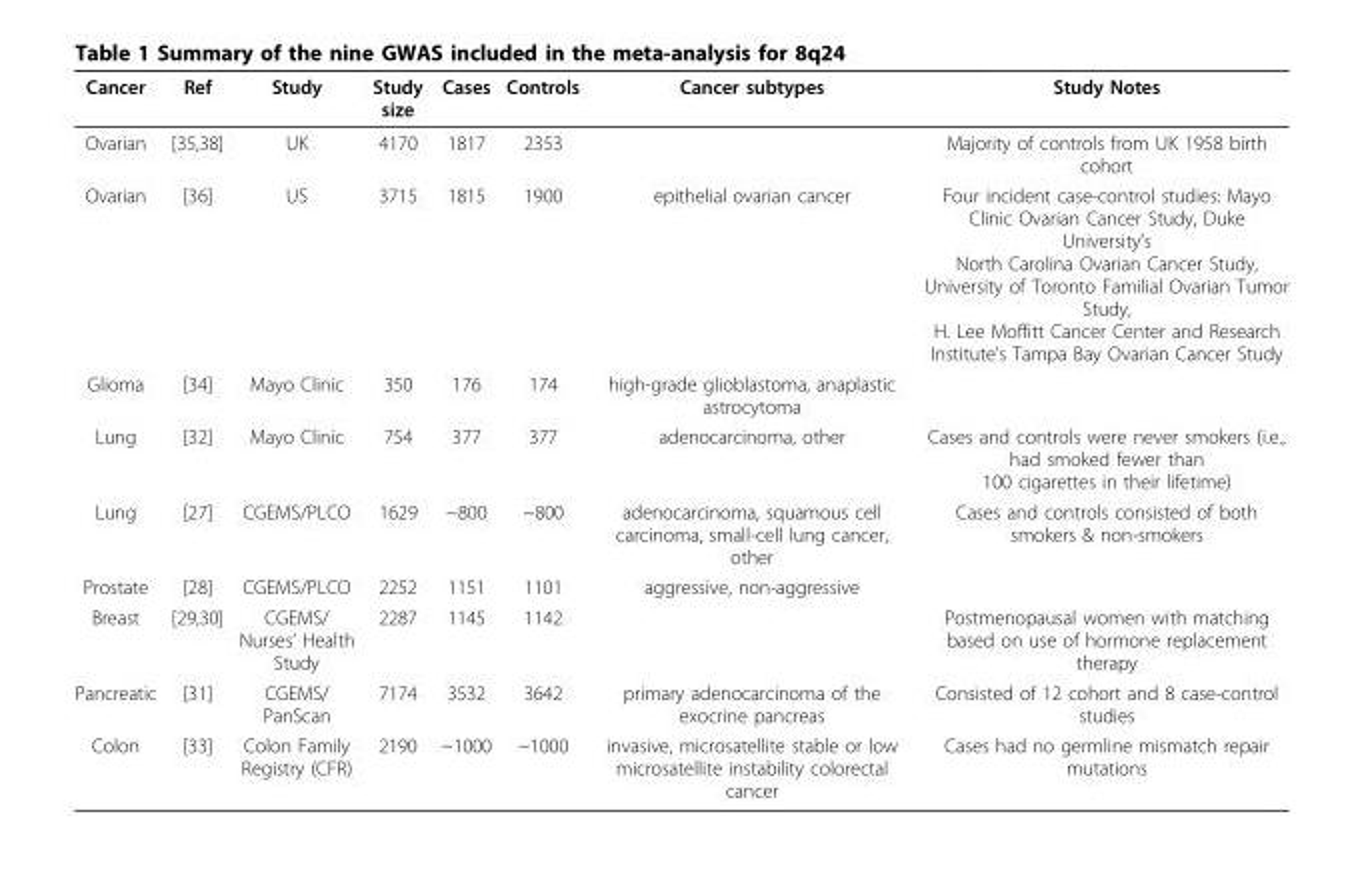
<table><thead><tr><td>Cancer</td><td>Ref</td><td>Study</td><td>Study size</td><td>Cases</td><td>Controls</td><td>Cancer subtypes</td><td>Study Notes</td></tr></thead><tbody><tr><td>Ovarian</td><td>[35,38]</td><td>UK</td><td>4170</td><td>1817</td><td>2353</td><td></td><td>Majority of controls from UK 1958 birth cohort</td></tr><tr><td>Ovarian</td><td>[36]</td><td>US</td><td>3715</td><td>1815</td><td>1900</td><td>epithelial ovarian cancer</td><td>Four incident case-control studies: Mayo Clinic Ovarian Cancer Study, Duke University’s North Carolina Ovarian Cancer Study, University of Toronto Familial Ovarian Tumor Study, H. Lee Moffitt Cancer Center and Research Institute’s Tampa Bay Ovarian Cancer Study</td></tr><tr><td>Glioma</td><td>[34]</td><td>Mayo Clinic</td><td>350</td><td>176</td><td>174</td><td>high-grade glioblastoma, anaplastic astrocytoma</td><td></td></tr><tr><td>Lung</td><td>[32]</td><td>Mayo Clinic</td><td>754</td><td>377</td><td>377</td><td>adenocarcinoma, other</td><td>Cases and controls were never smokers (i.e., had smoked fewer than 100 cigarettes in their lifetime)</td></tr><tr><td>Lung</td><td>[27]</td><td>CGEMS/PLCO</td><td>1629</td><td>~800</td><td>~800</td><td>adenocarcinoma, squamous cell carcinoma, small-cell lung cancer, other</td><td>Cases and controls consisted of both smokers &amp; non-smokers</td></tr><tr><td>Prostate</td><td>[28]</td><td>CGEMS/PLCO</td><td>2252</td><td>1151</td><td>1101</td><td>aggressive, non-aggressive</td><td></td></tr><tr><td>Breast</td><td>[29,30]</td><td>CGEMS/ Nurses’ Health Study</td><td>2287</td><td>1145</td><td>1142</td><td></td><td>Postmenopausal women with matching based on use of hormone replacement therapy</td></tr><tr><td>Pancreatic</td><td>[31]</td><td>CGEMS/ PanScan</td><td>7174</td><td>3532</td><td>3642</td><td>primary adenocarcinoma of the exocrine pancreas</td><td>Consisted of 12 cohort and 8 case-control studies</td></tr><tr><td>Colon</td><td>[33]</td><td>Colon Family Registry (CFR)</td><td>2190</td><td>~1000</td><td>~1000</td><td>invasive, microsatellite stable or low microsatellite instability colorectal cancer</td><td>Cases had no germline mismatch repair mutations</td></tr></tbody></table>